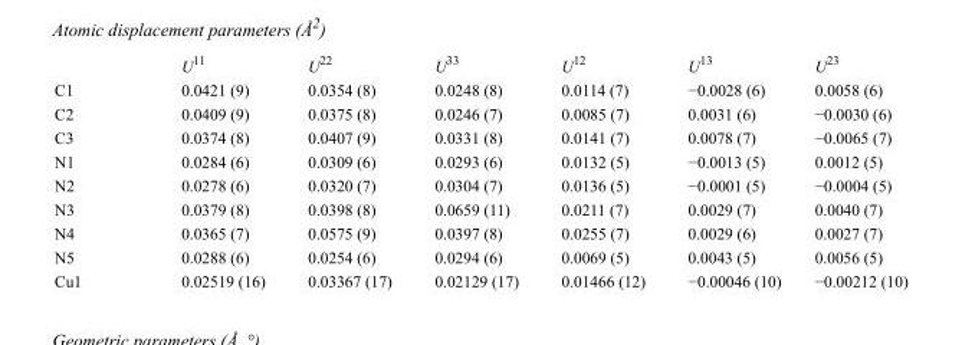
<table><thead><tr><td></td><td>U<sup>11</sup></td><td>U<sup>22</sup></td><td>U<sup>33</sup></td><td>U<sup>12</sup></td><td>U<sup>13</sup></td><td>U<sup>23</sup></td></tr></thead><tbody><tr><td>C1</td><td>0.0421 (9)</td><td>0.0354 (8)</td><td>0.0248 (8)</td><td>0.0114 (7)</td><td>−0.0028 (6)</td><td>0.0058 (6)</td></tr><tr><td>C2</td><td>0.0409 (9)</td><td>0.0375 (8)</td><td>0.0246 (7)</td><td>0.0085 (7)</td><td>0.0031 (6)</td><td>−0.0030 (6)</td></tr><tr><td>C3</td><td>0.0374 (8)</td><td>0.0407 (9)</td><td>0.0331 (8)</td><td>0.0141 (7)</td><td>0.0078 (7)</td><td>−0.0065 (7)</td></tr><tr><td>N1</td><td>0.0284 (6)</td><td>0.0309 (6)</td><td>0.0293 (6)</td><td>0.0132 (5)</td><td>−0.0013 (5)</td><td>0.0012 (5)</td></tr><tr><td>N2</td><td>0.0278 (6)</td><td>0.0320 (7)</td><td>0.0304 (7)</td><td>0.0136 (5)</td><td>−0.0001 (5)</td><td>−0.0004 (5)</td></tr><tr><td>N3</td><td>0.0379 (8)</td><td>0.0398 (8)</td><td>0.0659 (11)</td><td>0.0211 (7)</td><td>0.0029 (7)</td><td>0.0040 (7)</td></tr><tr><td>N4</td><td>0.0365 (7)</td><td>0.0575 (9)</td><td>0.0397 (8)</td><td>0.0255 (7)</td><td>0.0029 (6)</td><td>0.0027 (7)</td></tr><tr><td>N5</td><td>0.0288 (6)</td><td>0.0254 (6)</td><td>0.0294 (6)</td><td>0.0069 (5)</td><td>0.0043 (5)</td><td>0.0056 (5)</td></tr><tr><td>Cu1</td><td>0.02519 (16)</td><td>0.03367 (17)</td><td>0.02129 (17)</td><td>0.01466 (12)</td><td>−0.00046 (10)</td><td>−0.00212 (10)</td></tr></tbody></table>